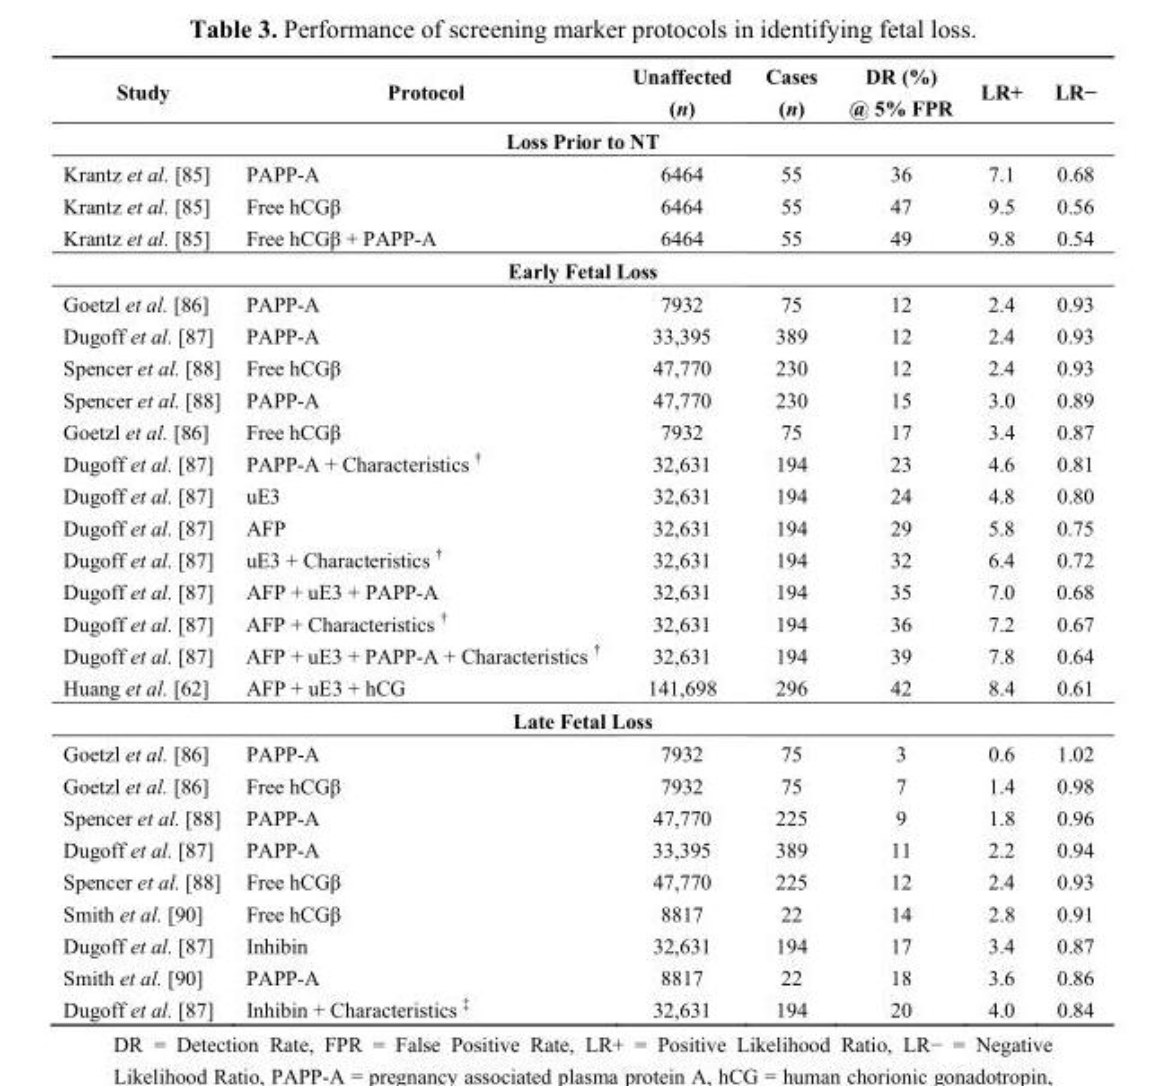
<table><thead><tr><td>Study</td><td>Protocol</td><td>Unaffected (n)</td><td>Cases (n)</td><td>DR (%) @ 5% FPR</td><td>LR+</td><td>LR−</td></tr></thead><tbody><tr><td colspan="7">Loss Prior to NT</td></tr><tr><td>Krantz et al. [85]</td><td>PAPP-A</td><td>6464</td><td>55</td><td>36</td><td>7.1</td><td>0.68</td></tr><tr><td>Krantz et al. [85]</td><td>Free hCGβ</td><td>6464</td><td>55</td><td>47</td><td>9.5</td><td>0.56</td></tr><tr><td>Krantz et al. [85]</td><td>Free hCGβ + PAPP-A</td><td>6464</td><td>55</td><td>49</td><td>9.8</td><td>0.54</td></tr><tr><td colspan="7">Early Fetal Loss</td></tr><tr><td>Goetzl et al. [86]</td><td>PAPP-A</td><td>7932</td><td>75</td><td>12</td><td>2.4</td><td>0.93</td></tr><tr><td>Dugoff et al. [87]</td><td>PAPP-A</td><td>33,395</td><td>389</td><td>12</td><td>2.4</td><td>0.93</td></tr><tr><td>Spencer et al. [88]</td><td>Free hCGβ</td><td>47,770</td><td>230</td><td>12</td><td>2.4</td><td>0.93</td></tr><tr><td>Spencer et al. [88]</td><td>PAPP-A</td><td>47,770</td><td>230</td><td>15</td><td>3.0</td><td>0.89</td></tr><tr><td>Goetzl et al. [86]</td><td>Free hCGβ</td><td>7932</td><td>75</td><td>17</td><td>3.4</td><td>0.87</td></tr><tr><td>Dugoff et al. [87]</td><td>PAPP-A + Characteristics <sup>†</sup></td><td>32,631</td><td>194</td><td>23</td><td>4.6</td><td>0.81</td></tr><tr><td>Dugoff et al. [87]</td><td>uE3</td><td>32,631</td><td>194</td><td>24</td><td>4.8</td><td>0.80</td></tr><tr><td>Dugoff et al. [87]</td><td>AFP</td><td>32,631</td><td>194</td><td>29</td><td>5.8</td><td>0.75</td></tr><tr><td>Dugoff et al. [87]</td><td>uE3 + Characteristics <sup>†</sup></td><td>32,631</td><td>194</td><td>32</td><td>6.4</td><td>0.72</td></tr><tr><td>Dugoff et al. [87]</td><td>AFP + uE3 + PAPP-A</td><td>32,631</td><td>194</td><td>35</td><td>7.0</td><td>0.68</td></tr><tr><td>Dugoff et al. [87]</td><td>AFP + Characteristics <sup>†</sup></td><td>32,631</td><td>194</td><td>36</td><td>7.2</td><td>0.67</td></tr><tr><td>Dugoff et al. [87]</td><td>AFP + uE3 + PAPP-A + Characteristics <sup>†</sup></td><td>32,631</td><td>194</td><td>39</td><td>7.8</td><td>0.64</td></tr><tr><td>Huang et al. [62]</td><td>AFP + uE3 + hCG</td><td>141,698</td><td>296</td><td>42</td><td>8.4</td><td>0.61</td></tr><tr><td colspan="7">Late Fetal Loss</td></tr><tr><td>Goetzl et al. [86]</td><td>PAPP-A</td><td>7932</td><td>75</td><td>3</td><td>0.6</td><td>1.02</td></tr><tr><td>Goetzl et al. [86]</td><td>Free hCGβ</td><td>7932</td><td>75</td><td>7</td><td>1.4</td><td>0.98</td></tr><tr><td>Spencer et al. [88]</td><td>PAPP-A</td><td>47,770</td><td>225</td><td>9</td><td>1.8</td><td>0.96</td></tr><tr><td>Dugoff et al. [87]</td><td>PAPP-A</td><td>33,395</td><td>389</td><td>11</td><td>2.2</td><td>0.94</td></tr><tr><td>Spencer et al. [88]</td><td>Free hCGβ</td><td>47,770</td><td>225</td><td>12</td><td>2.4</td><td>0.93</td></tr><tr><td>Smith et al. [90]</td><td>Free hCGβ</td><td>8817</td><td>22</td><td>14</td><td>2.8</td><td>0.91</td></tr><tr><td>Dugoff et al. [87]</td><td>Inhibin</td><td>32,631</td><td>194</td><td>17</td><td>3.4</td><td>0.87</td></tr><tr><td>Smith et al. [90]</td><td>PAPP-A</td><td>8817</td><td>22</td><td>18</td><td>3.6</td><td>0.86</td></tr><tr><td>Dugoff et al. [87]</td><td>Inhibin + Characteristics <sup>‡</sup></td><td>32,631</td><td>194</td><td>20</td><td>4.0</td><td>0.84</td></tr></tbody></table>